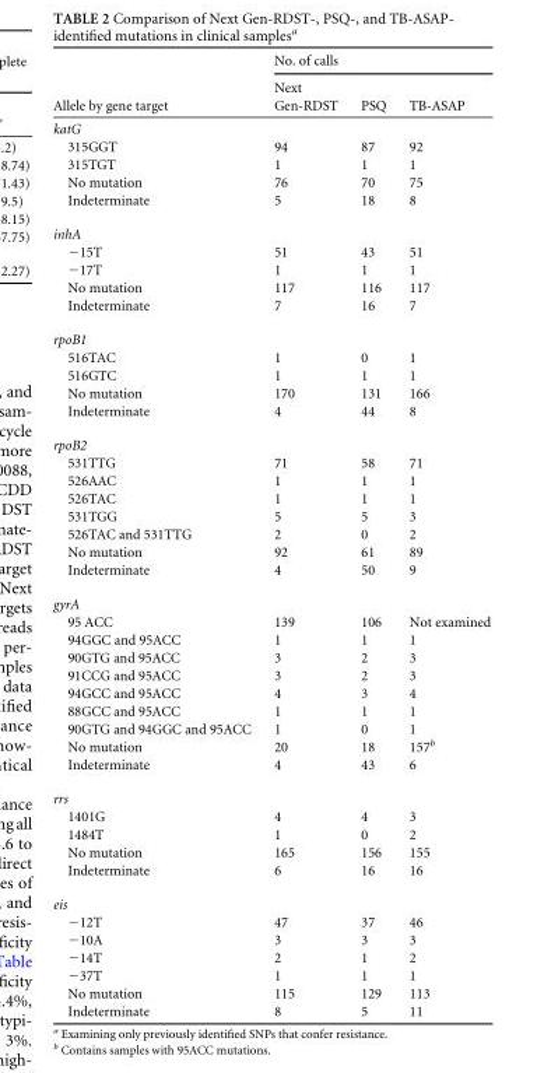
<table><thead><tr><td rowspan="2">Allele by gene target</td><td colspan="3">No. of calls</td></tr><tr><td>Next Gen-RDST</td><td>PSQ</td><td>TB-ASAP</td></tr></thead><tbody><tr><td colspan="4">katG</td></tr><tr><td>315GGT</td><td>94</td><td>87</td><td>92</td></tr><tr><td>315TGT</td><td>1</td><td>1</td><td>1</td></tr><tr><td>No mutation</td><td>76</td><td>70</td><td>75</td></tr><tr><td>Indeterminate</td><td>5</td><td>18</td><td>8</td></tr><tr><td colspan="4">inhA</td></tr><tr><td>−15T</td><td>51</td><td>43</td><td>51</td></tr><tr><td>−17T</td><td>1</td><td>1</td><td>1</td></tr><tr><td>No mutation</td><td>117</td><td>116</td><td>117</td></tr><tr><td>Indeterminate</td><td>7</td><td>16</td><td>7</td></tr><tr><td colspan="4">rpoB1</td></tr><tr><td>516TAC</td><td>1</td><td>0</td><td>1</td></tr><tr><td>516GTC</td><td>1</td><td>1</td><td>1</td></tr><tr><td>No mutation</td><td>170</td><td>131</td><td>166</td></tr><tr><td>Indeterminate</td><td>4</td><td>44</td><td>8</td></tr><tr><td colspan="4">rpoB2</td></tr><tr><td>531TTG</td><td>71</td><td>58</td><td>71</td></tr><tr><td>526AAC</td><td>1</td><td>1</td><td>1</td></tr><tr><td>526TAC</td><td>1</td><td>1</td><td>1</td></tr><tr><td>531TGG</td><td>5</td><td>5</td><td>3</td></tr><tr><td>526TAC and 531TTG</td><td>2</td><td>0</td><td>2</td></tr><tr><td>No mutation</td><td>92</td><td>61</td><td>89</td></tr><tr><td>Indeterminate</td><td>4</td><td>50</td><td>9</td></tr><tr><td colspan="4">gyrA</td></tr><tr><td>95 ACC</td><td>139</td><td>106</td><td>Not examined</td></tr><tr><td>94GGC and 95ACC</td><td>1</td><td>1</td><td>1</td></tr><tr><td>90GTG and 95ACC</td><td>3</td><td>2</td><td>3</td></tr><tr><td>91CCG and 95ACC</td><td>3</td><td>2</td><td>3</td></tr><tr><td>94GCC and 95ACC</td><td>4</td><td>3</td><td>4</td></tr><tr><td>88GCC and 95ACC</td><td>1</td><td>1</td><td>1</td></tr><tr><td>90GTG and 94GGC and 95ACC</td><td>1</td><td>0</td><td>1</td></tr><tr><td>No mutation</td><td>20</td><td>18</td><td>157<sup>b</sup></td></tr><tr><td>Indeterminate</td><td>4</td><td>43</td><td>6</td></tr><tr><td colspan="4">rrs</td></tr><tr><td>1401G</td><td>4</td><td>4</td><td>3</td></tr><tr><td>1484T</td><td>1</td><td>0</td><td>2</td></tr><tr><td>No mutation</td><td>165</td><td>156</td><td>155</td></tr><tr><td>Indeterminate</td><td>6</td><td>16</td><td>16</td></tr><tr><td colspan="4">eis</td></tr><tr><td>−12T</td><td>47</td><td>37</td><td>46</td></tr><tr><td>−10A</td><td>3</td><td>3</td><td>3</td></tr><tr><td>−14T</td><td>2</td><td>1</td><td>2</td></tr><tr><td>−37T</td><td>1</td><td>1</td><td>1</td></tr><tr><td>No mutation</td><td>115</td><td>129</td><td>113</td></tr><tr><td>Indeterminate</td><td>8</td><td>5</td><td>11</td></tr></tbody></table>